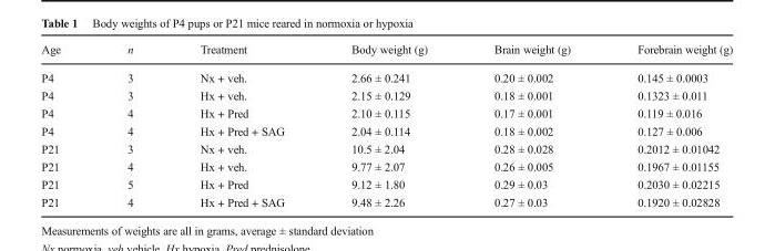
<table><thead><tr><td>Age</td><td>n</td><td>Treatment</td><td>Body weight (g)</td><td>Brain weight (g)</td><td>Forebrain weight (g)</td></tr></thead><tbody><tr><td>P4</td><td>3</td><td>Nx + veh.</td><td>2.66 ± 0.241</td><td>0.20 ± 0.002</td><td>0.145 ± 0.0003</td></tr><tr><td>P4</td><td>3</td><td>Hx + veh.</td><td>2.15 ± 0.129</td><td>0.18 ± 0.001</td><td>0.1323 ± 0.011</td></tr><tr><td>P4</td><td>4</td><td>Hx + Pred</td><td>2.10 ± 0.115</td><td>0.17 ± 0.001</td><td>0.119 ± 0.016</td></tr><tr><td>P4</td><td>4</td><td>Hx + Pred + SAG</td><td>2.04 ± 0.114</td><td>0.18 ± 0.002</td><td>0.127 ± 0.006</td></tr><tr><td>P21</td><td>3</td><td>Nx + veh.</td><td>10.5 ± 2.04</td><td>0.28 ± 0.028</td><td>0.2012 ± 0.01042</td></tr><tr><td>P21</td><td>4</td><td>Hx + veh.</td><td>9.77 ± 2.07</td><td>0.26 ± 0.005</td><td>0.1967 ± 0.01155</td></tr><tr><td>P21</td><td>5</td><td>Hx + Pred</td><td>9.12 ± 1.80</td><td>0.29 ± 0.03</td><td>0.2030 ± 0.02215</td></tr><tr><td>P21</td><td>4</td><td>Hx + Pred + SAG</td><td>9.48 ± 2.26</td><td>0.27 ± 0.03</td><td>0.1920 ± 0.02828</td></tr></tbody></table>